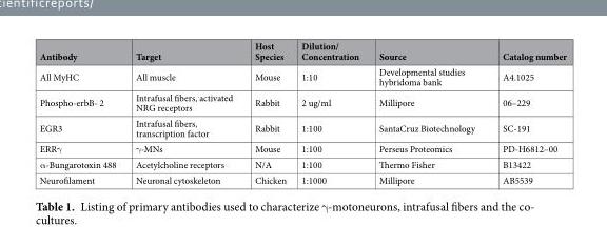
<table><thead><tr><td>Antibody</td><td>Target</td><td>Host Species</td><td>Dilution/ Concentration</td><td>Source</td><td>Catalog number</td></tr></thead><tbody><tr><td>All MyHC</td><td>All muscle</td><td>Mouse</td><td>1:10</td><td>Developmental studies hybridoma bank</td><td>A4.1025</td></tr><tr><td>Phospho-erbB- 2</td><td>Intrafusal fibers, activated NRG receptors</td><td>Rabbit</td><td>2 ug/ml</td><td>Millipore</td><td>06–229</td></tr><tr><td>EGR3</td><td>Intrafusal fibers, transcription factor</td><td>Rabbit</td><td>1:100</td><td>SantaCruz Biotechnology</td><td>SC-191</td></tr><tr><td>ERRγ</td><td>γ-MNs</td><td>Mouse</td><td>1:100</td><td>Perseus Proteomics</td><td>PD-H6812–00</td></tr><tr><td>α-Bungarotoxin 488</td><td>Acetylcholine receptors</td><td>N/A</td><td>1:100</td><td>Thermo Fisher</td><td>B13422</td></tr><tr><td>Neurofilament</td><td>Neuronal cytoskeleton</td><td>Chicken</td><td>1:1000</td><td>Millipore</td><td>AB5539</td></tr></tbody></table>